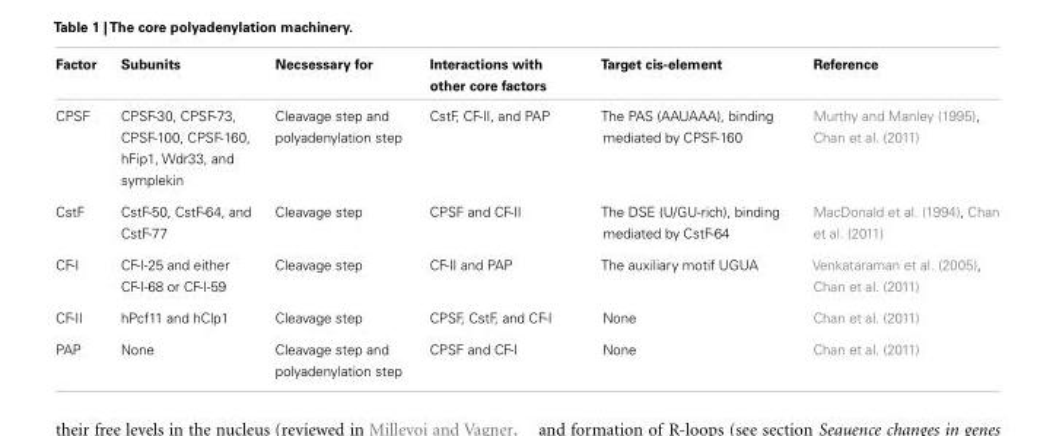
<table><thead><tr><td>Factor</td><td>Subunits</td><td>Necsessary for</td><td>Interactions with other core factors</td><td>Target cis-element</td><td>Reference</td></tr></thead><tbody><tr><td>CPSF</td><td>CPSF-30, CPSF-73, CPSF-100, CPSF-160, hFip1, Wdr33, and symplekin</td><td>Cleavage step and polyadenylation step</td><td>CstF, CF-II, and PAP</td><td>The PAS (AAUAAA), binding mediated by CPSF-160</td><td>Murthy and Manley (1995), Chan et al. (2011)</td></tr><tr><td>CstF</td><td>CstF-50, CstF-64, and CstF-77</td><td>Cleavage step</td><td>CPSF and CF-II</td><td>The DSE (U/GU-rich), binding mediated by CstF-64</td><td>MacDonald et al. (1994), Chan et al. (2011)</td></tr><tr><td>CF-I</td><td>CF-I-25 and either CF-I-68 or CF-I-59</td><td>Cleavage step</td><td>CF-II and PAP</td><td>The auxiliary motif UGUA</td><td>Venkataraman et al. (2005), Chan et al. (2011)</td></tr><tr><td>CF-II</td><td>hPcf11 and hClp1</td><td>Cleavage step</td><td>CPSF, CstF, and CF-I</td><td>None</td><td>Chan et al. (2011)</td></tr><tr><td>PAP</td><td>None</td><td>Cleavage step and polyadenylation step</td><td>CPSF and CF-I</td><td>None</td><td>Chan et al. (2011)</td></tr></tbody></table>